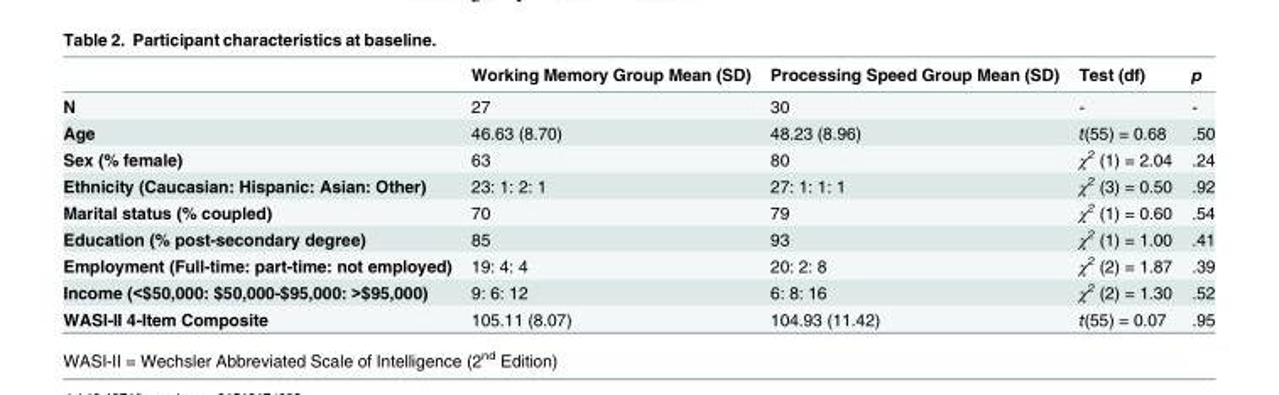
<table><thead><tr><td></td><td>Working Memory Group Mean (SD)</td><td>Processing Speed Group Mean (SD)</td><td>Test (df)</td><td>p</td></tr></thead><tbody><tr><td>N</td><td>27</td><td>30</td><td>-</td><td>-</td></tr><tr><td>Age</td><td>46.63 (8.70)</td><td>48.23 (8.96)</td><td>t(55) = 0.68</td><td>.50</td></tr><tr><td>Sex (% female)</td><td>63</td><td>80</td><td>χ<sup>2</sup> (1) = 2.04</td><td>.24</td></tr><tr><td>Ethnicity (Caucasian: Hispanic: Asian: Other)</td><td>23: 1: 2: 1</td><td>27: 1: 1: 1</td><td>χ<sup>2</sup> (3) = 0.50</td><td>.92</td></tr><tr><td>Marital status (% coupled)</td><td>70</td><td>79</td><td>χ<sup>2</sup> (1) = 0.60</td><td>.54</td></tr><tr><td>Education (% post-secondary degree)</td><td>85</td><td>93</td><td>χ<sup>2</sup> (1) = 1.00</td><td>.41</td></tr><tr><td>Employment (Full-time: part-time: not employed)</td><td>19: 4: 4</td><td>20: 2: 8</td><td>χ<sup>2</sup> (2) = 1.87</td><td>.39</td></tr><tr><td>Income (&lt;$50,000: $50,000-$95,000: &gt;$95,000)</td><td>9: 6: 12</td><td>6: 8: 16</td><td>χ<sup>2</sup> (2) = 1.30</td><td>.52</td></tr><tr><td>WASI-II 4-Item Composite</td><td>105.11 (8.07)</td><td>104.93 (11.42)</td><td>t(55) = 0.07</td><td>.95</td></tr></tbody></table>